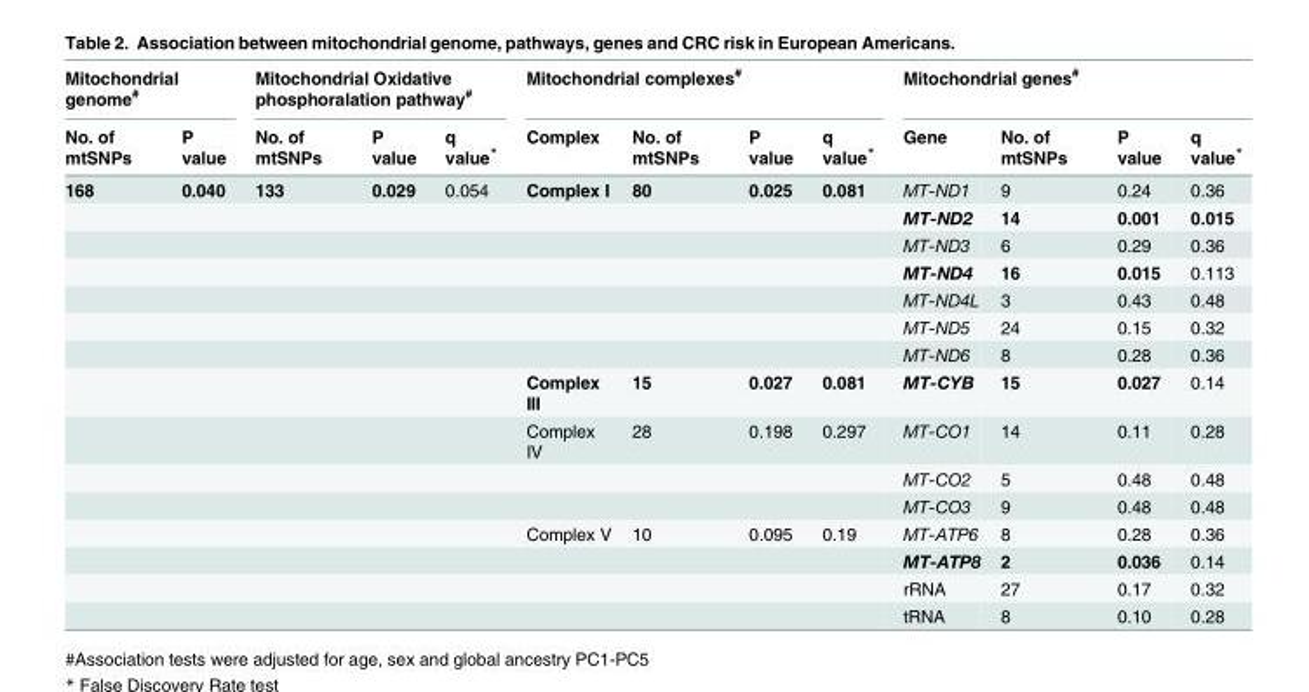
<table><thead><tr><td colspan="2">Mitochondrial genome<sup>#</sup></td><td colspan="3">Mitochondrial Oxidative phosphoralation pathway<sup>#</sup></td><td colspan="4">Mitochondrial complexes<sup>#</sup></td><td colspan="4">Mitochondrial genes<sup>#</sup></td></tr><tr><td>No. of mtSNPs</td><td>P value</td><td>No. of mtSNPs</td><td>P value</td><td>q value*</td><td>Complex</td><td>No. of mtSNPs</td><td>P value</td><td>q value*</td><td>Gene</td><td>No. of mtSNPs</td><td>P value</td><td>q value*</td></tr></thead><tbody><tr><td rowspan="15">168</td><td>0.040</td><td>133</td><td>0.029</td><td>0.054</td><td>Complex I</td><td>80</td><td>0.025</td><td>0.081</td><td>MT-ND1</td><td>9</td><td>0.24</td><td>0.36</td></tr><tr><td></td><td></td><td></td><td></td><td></td><td></td><td></td><td></td><td>MT-ND2</td><td>14</td><td>0.001</td><td>0.015</td></tr><tr><td></td><td></td><td></td><td></td><td></td><td></td><td></td><td></td><td>MT-ND3</td><td>6</td><td>0.29</td><td>0.36</td></tr><tr><td></td><td></td><td></td><td></td><td></td><td></td><td></td><td></td><td>MT-ND4</td><td>16</td><td>0.015</td><td>0.113</td></tr><tr><td></td><td></td><td></td><td></td><td></td><td></td><td></td><td></td><td>MT-ND4L</td><td>3</td><td>0.43</td><td>0.48</td></tr><tr><td></td><td></td><td></td><td></td><td></td><td></td><td></td><td></td><td>MT-ND5</td><td>24</td><td>0.15</td><td>0.32</td></tr><tr><td></td><td></td><td></td><td></td><td></td><td></td><td></td><td></td><td>MT-ND6</td><td>8</td><td>0.28</td><td>0.36</td></tr><tr><td></td><td></td><td></td><td></td><td>Complex III</td><td>15</td><td>0.027</td><td>0.081</td><td>MT-CYB</td><td>15</td><td>0.027</td><td>0.14</td></tr><tr><td></td><td></td><td></td><td></td><td>Complex IV</td><td>28</td><td>0.198</td><td>0.297</td><td>MT-CO1</td><td>14</td><td>0.11</td><td>0.28</td></tr><tr><td></td><td></td><td></td><td></td><td></td><td></td><td></td><td></td><td>MT-CO2</td><td>5</td><td>0.48</td><td>0.48</td></tr><tr><td></td><td></td><td></td><td></td><td></td><td></td><td></td><td></td><td>MT-CO3</td><td>9</td><td>0.48</td><td>0.48</td></tr><tr><td></td><td></td><td></td><td></td><td>Complex V</td><td>10</td><td>0.095</td><td>0.19</td><td>MT-ATP6</td><td>8</td><td>0.28</td><td>0.36</td></tr><tr><td></td><td></td><td></td><td></td><td></td><td></td><td></td><td></td><td>MT-ATP8</td><td>2</td><td>0.036</td><td>0.14</td></tr><tr><td></td><td></td><td></td><td></td><td></td><td></td><td></td><td></td><td>rRNA</td><td>27</td><td>0.17</td><td>0.32</td></tr><tr><td></td><td></td><td></td><td></td><td></td><td></td><td></td><td></td><td>tRNA</td><td>8</td><td>0.10</td><td>0.28</td></tr></tbody></table>